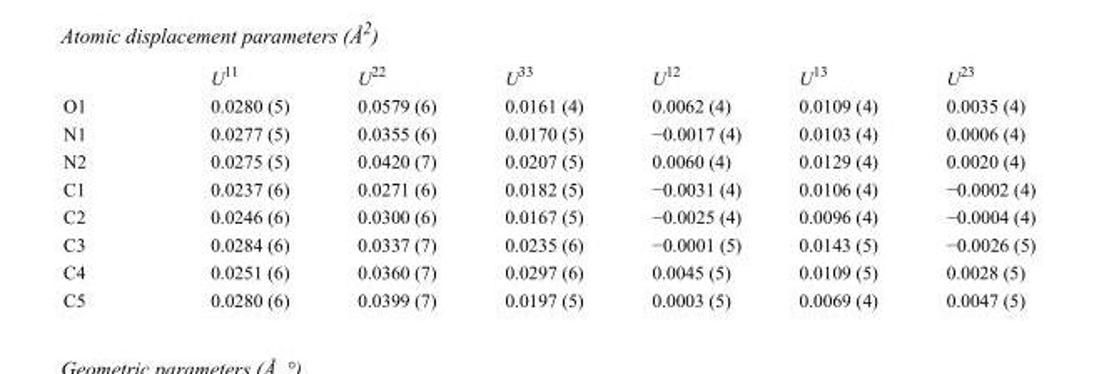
<table><thead><tr><td></td><td>U<sup>11</sup></td><td>U<sup>22</sup></td><td>U<sup>33</sup></td><td>U<sup>12</sup></td><td>U<sup>13</sup></td><td>U<sup>23</sup></td></tr></thead><tbody><tr><td>O1</td><td>0.0280 (5)</td><td>0.0579 (6)</td><td>0.0161 (4)</td><td>0.0062 (4)</td><td>0.0109 (4)</td><td>0.0035 (4)</td></tr><tr><td>N1</td><td>0.0277 (5)</td><td>0.0355 (6)</td><td>0.0170 (5)</td><td>−0.0017 (4)</td><td>0.0103 (4)</td><td>0.0006 (4)</td></tr><tr><td>N2</td><td>0.0275 (5)</td><td>0.0420 (7)</td><td>0.0207 (5)</td><td>0.0060 (4)</td><td>0.0129 (4)</td><td>0.0020 (4)</td></tr><tr><td>C1</td><td>0.0237 (6)</td><td>0.0271 (6)</td><td>0.0182 (5)</td><td>−0.0031 (4)</td><td>0.0106 (4)</td><td>−0.0002 (4)</td></tr><tr><td>C2</td><td>0.0246 (6)</td><td>0.0300 (6)</td><td>0.0167 (5)</td><td>−0.0025 (4)</td><td>0.0096 (4)</td><td>−0.0004 (4)</td></tr><tr><td>C3</td><td>0.0284 (6)</td><td>0.0337 (7)</td><td>0.0235 (6)</td><td>−0.0001 (5)</td><td>0.0143 (5)</td><td>−0.0026 (5)</td></tr><tr><td>C4</td><td>0.0251 (6)</td><td>0.0360 (7)</td><td>0.0297 (6)</td><td>0.0045 (5)</td><td>0.0109 (5)</td><td>0.0028 (5)</td></tr><tr><td>C5</td><td>0.0280 (6)</td><td>0.0399 (7)</td><td>0.0197 (5)</td><td>0.0003 (5)</td><td>0.0069 (4)</td><td>0.0047 (5)</td></tr></tbody></table>